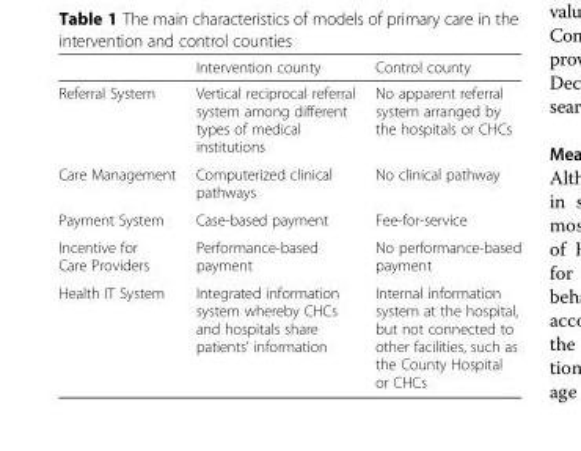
<table><thead><tr><td></td><td>Intervention county</td><td>Control county</td></tr></thead><tbody><tr><td>Referral System</td><td>Vertical reciprocal referral system among different types of medical institutions</td><td>No apparent referral system arranged by the hospitals or CHCs</td></tr><tr><td>Care Management</td><td>Computerized clinical pathways</td><td>No clinical pathway</td></tr><tr><td>Payment System</td><td>Case-based payment</td><td>Fee-for-service</td></tr><tr><td>Incentive for Care Providers</td><td>Performance-based payment</td><td>No performance-based payment</td></tr><tr><td>Health IT System</td><td>Integrated information system whereby CHCs and hospitals share patients’ information</td><td>Internal information system at the hospital, but not connected to other facilities, such as the County Hospital or CHCs</td></tr></tbody></table>